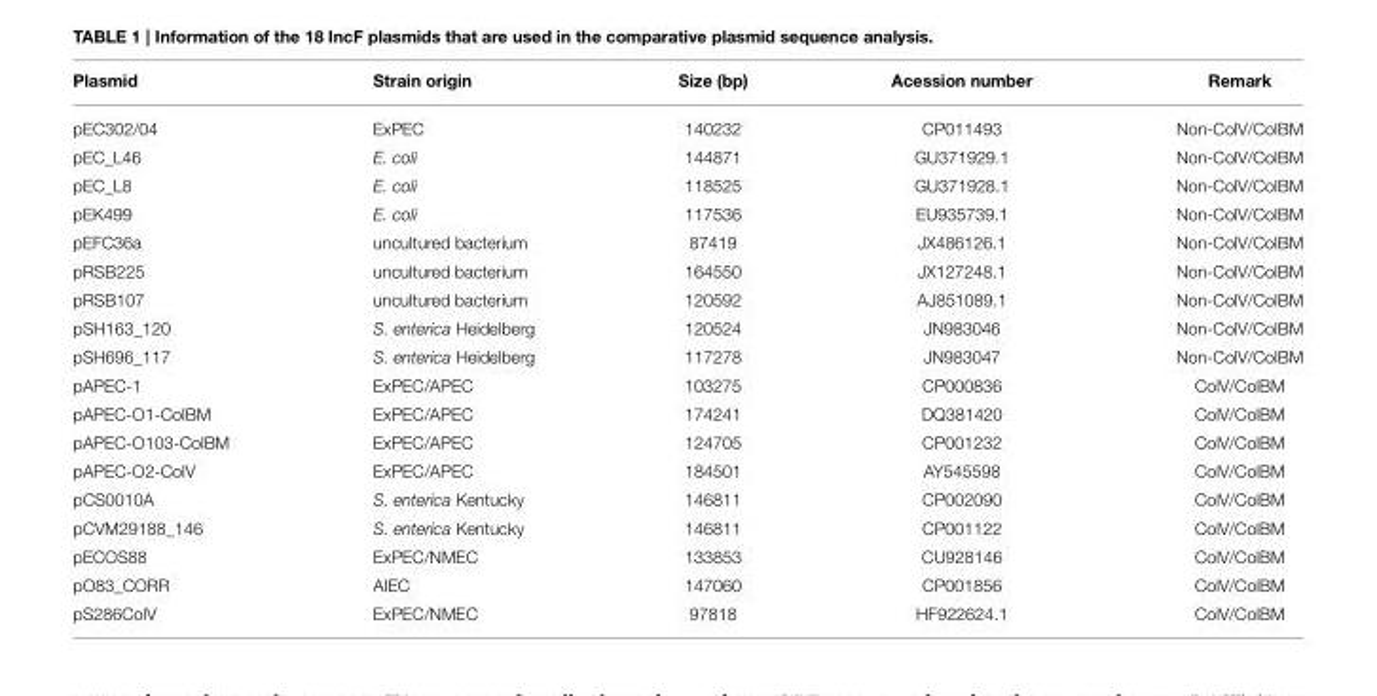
<table><thead><tr><td>Plasmid</td><td>Strain origin</td><td>Size (bp)</td><td>Acession number</td><td>Remark</td></tr></thead><tbody><tr><td>pEC302/04</td><td>ExPEC</td><td>140232</td><td>CP011493</td><td>Non-ColV/ColBM</td></tr><tr><td>pEC_L46</td><td>E. coli</td><td>144871</td><td>GU371929.1</td><td>Non-ColV/ColBM</td></tr><tr><td>pEC_L8</td><td>E. coli</td><td>118525</td><td>GU371928.1</td><td>Non-ColV/ColBM</td></tr><tr><td>pEK499</td><td>E. coli</td><td>117536</td><td>EU935739.1</td><td>Non-ColV/ColBM</td></tr><tr><td>pEFC36a</td><td>uncultured bacterium</td><td>87419</td><td>JX486126.1</td><td>Non-ColV/ColBM</td></tr><tr><td>pRSB225</td><td>uncultured bacterium</td><td>164550</td><td>JX127248.1</td><td>Non-ColV/ColBM</td></tr><tr><td>pRSB107</td><td>uncultured bacterium</td><td>120592</td><td>AJ851089.1</td><td>Non-ColV/ColBM</td></tr><tr><td>pSH163_120</td><td>S. enterica Heidelberg</td><td>120524</td><td>JN983046</td><td>Non-ColV/ColBM</td></tr><tr><td>pSH696_117</td><td>S. enterica Heidelberg</td><td>117278</td><td>JN983047</td><td>Non-ColV/ColBM</td></tr><tr><td>pAPEC-1</td><td>ExPEC/APEC</td><td>103275</td><td>CP000836</td><td>ColV/ColBM</td></tr><tr><td>pAPEC-O1-ColBM</td><td>ExPEC/APEC</td><td>174241</td><td>DQ381420</td><td>ColV/ColBM</td></tr><tr><td>pAPEC-O103-ColBM</td><td>ExPEC/APEC</td><td>124705</td><td>CP001232</td><td>ColV/ColBM</td></tr><tr><td>pAPEC-O2-ColV</td><td>ExPEC/APEC</td><td>184501</td><td>AY545598</td><td>ColV/ColBM</td></tr><tr><td>pCS0010A</td><td>S. enterica Kentucky</td><td>146811</td><td>CP002090</td><td>ColV/ColBM</td></tr><tr><td>pCVM29188_146</td><td>S. enterica Kentucky</td><td>146811</td><td>CP001122</td><td>ColV/ColBM</td></tr><tr><td>pECOS88</td><td>ExPEC/NMEC</td><td>133853</td><td>CU928146</td><td>ColV/ColBM</td></tr><tr><td>pO83_CORR</td><td>AIEC</td><td>147060</td><td>CP001856</td><td>ColV/ColBM</td></tr><tr><td>pS286ColV</td><td>ExPEC/NMEC</td><td>97818</td><td>HF922624.1</td><td>ColV/ColBM</td></tr></tbody></table>